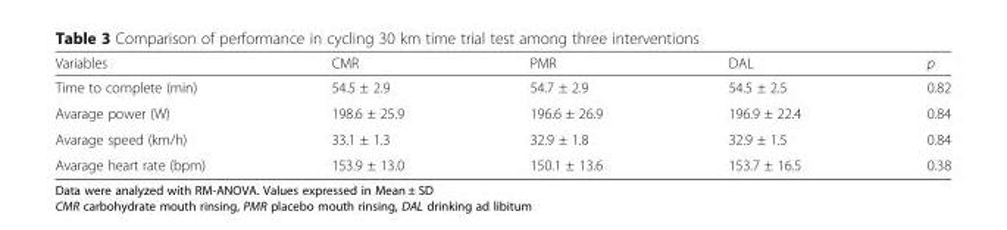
<table><thead><tr><td>Variables</td><td>CMR</td><td>PMR</td><td>DAL</td><td>p</td></tr></thead><tbody><tr><td>Time to complete (min)</td><td>54.5 ± 2.9</td><td>54.7 ± 2.9</td><td>54.5 ± 2.5</td><td>0.82</td></tr><tr><td>Avarage power (W)</td><td>198.6 ± 25.9</td><td>196.6 ± 26.9</td><td>196.9 ± 22.4</td><td>0.84</td></tr><tr><td>Avarage speed (km/h)</td><td>33.1 ± 1.3</td><td>32.9 ± 1.8</td><td>32.9 ± 1.5</td><td>0.84</td></tr><tr><td>Avarage heart rate (bpm)</td><td>153.9 ± 13.0</td><td>150.1 ± 13.6</td><td>153.7 ± 16.5</td><td>0.38</td></tr></tbody></table>